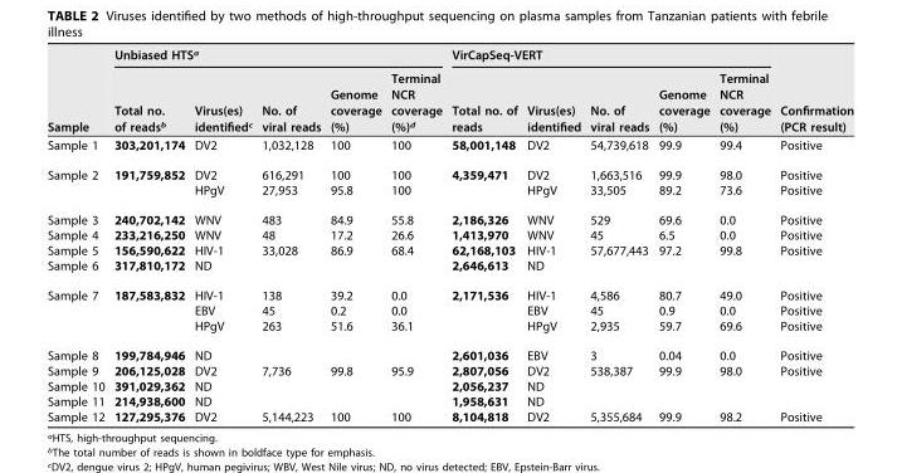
<table><thead><tr><td rowspan="2">Sample</td><td colspan="5">Unbiased HTS<sup>a</sup></td><td colspan="5">VirCapSeq-VERT</td><td rowspan="2">Confirmation (PCR result)</td></tr><tr><td>Total no. of reads<sup>b</sup></td><td>Virus(es) identified<sup>c</sup></td><td>No. of viral reads</td><td>Genome coverage (%)</td><td>Terminal NCR coverage (%)<sup>d</sup></td><td>Total no. of reads</td><td>Virus(es) identified</td><td>No. of viral reads</td><td>Genome coverage (%)</td><td>Terminal NCR coverage (%)</td></tr></thead><tbody><tr><td>Sample 1</td><td>303,201,174</td><td>DV2</td><td>1,032,128</td><td>100</td><td>100</td><td>58,001,148</td><td>DV2</td><td>54,739,618</td><td>99.9</td><td>99.4</td><td>Positive</td></tr><tr><td rowspan="2">Sample 2</td><td rowspan="2">191,759,852</td><td>DV2</td><td>616,291</td><td>100</td><td>100</td><td rowspan="2">4,359,471</td><td>DV2</td><td>1,663,516</td><td>99.9</td><td>98.0</td><td>Positive</td></tr><tr><td>HPgV</td><td>27,953</td><td>95.8</td><td>100</td><td>HPgV</td><td>33,505</td><td>89.2</td><td>73.6</td><td>Positive</td></tr><tr><td>Sample 3</td><td>240,702,142</td><td>WNV</td><td>483</td><td>84.9</td><td>55.8</td><td>2,186,326</td><td>WNV</td><td>529</td><td>69.6</td><td>0.0</td><td>Positive</td></tr><tr><td>Sample 4</td><td>233,216,250</td><td>WNV</td><td>48</td><td>17.2</td><td>26.6</td><td>1,413,970</td><td>WNV</td><td>45</td><td>6.5</td><td>0.0</td><td>Positive</td></tr><tr><td>Sample 5</td><td>156,590,622</td><td>HIV-1</td><td>33,028</td><td>86.9</td><td>68.4</td><td>62,168,103</td><td>HIV-1</td><td>57,677,443</td><td>97.2</td><td>99.8</td><td>Positive</td></tr><tr><td>Sample 6</td><td>317,810,172</td><td>ND</td><td></td><td></td><td></td><td>2,646,613</td><td>ND</td><td></td><td></td><td></td><td></td></tr><tr><td rowspan="3">Sample 7</td><td rowspan="3">187,583,832</td><td>HIV-1</td><td>138</td><td>39.2</td><td>0.0</td><td rowspan="3">2,171,536</td><td>HIV-1</td><td>4,586</td><td>80.7</td><td>49.0</td><td>Positive</td></tr><tr><td>EBV</td><td>45</td><td>0.2</td><td>0.0</td><td>EBV</td><td>45</td><td>0.9</td><td>0.0</td><td>Positive</td></tr><tr><td>HPgV</td><td>263</td><td>51.6</td><td>36.1</td><td>HPgV</td><td>2,935</td><td>59.7</td><td>69.6</td><td>Positive</td></tr><tr><td>Sample 8</td><td>199,784,946</td><td>ND</td><td></td><td></td><td></td><td>2,601,036</td><td>EBV</td><td>3</td><td>0.04</td><td>0.0</td><td>Positive</td></tr><tr><td>Sample 9</td><td>206,125,028</td><td>DV2</td><td>7,736</td><td>99.8</td><td>95.9</td><td>2,807,056</td><td>DV2</td><td>538,387</td><td>99.9</td><td>98.0</td><td>Positive</td></tr><tr><td>Sample 10</td><td>391,029,362</td><td>ND</td><td></td><td></td><td></td><td>2,056,237</td><td>ND</td><td></td><td></td><td></td><td></td></tr><tr><td>Sample 11</td><td>214,938,600</td><td>ND</td><td></td><td></td><td></td><td>1,958,631</td><td>ND</td><td></td><td></td><td></td><td></td></tr><tr><td>Sample 12</td><td>127,295,376</td><td>DV2</td><td>5,144,223</td><td>100</td><td>100</td><td>8,104,818</td><td>DV2</td><td>5,355,684</td><td>99.9</td><td>98.2</td><td>Positive</td></tr></tbody></table>